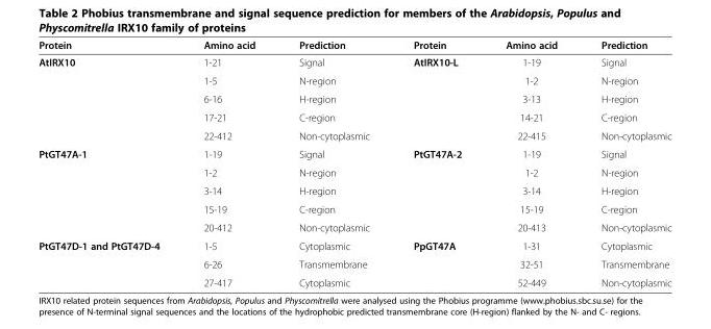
<table><thead><tr><td>Protein</td><td>Amino acid</td><td>Prediction</td><td>Protein</td><td>Amino acid</td><td>Prediction</td></tr></thead><tbody><tr><td rowspan="5">AtIRX10</td><td>1-21</td><td>Signal</td><td>AtIRX10-L</td><td>1-19</td><td>Signal</td></tr><tr><td>1-5</td><td>N-region</td><td></td><td>1-2</td><td>N-region</td></tr><tr><td>6-16</td><td>H-region</td><td></td><td>3-13</td><td>H-region</td></tr><tr><td>17-21</td><td>C-region</td><td></td><td>14-21</td><td>C-region</td></tr><tr><td>22-412</td><td>Non-cytoplasmic</td><td></td><td>22-415</td><td>Non-cytoplasmic</td></tr><tr><td rowspan="5">PtGT47A-1</td><td>1-19</td><td>Signal</td><td>PtGT47A-2</td><td>1-19</td><td>Signal</td></tr><tr><td>1-2</td><td>N-region</td><td></td><td>1-2</td><td>N-region</td></tr><tr><td>3-14</td><td>H-region</td><td></td><td>3-14</td><td>H-region</td></tr><tr><td>15-19</td><td>C-region</td><td></td><td>15-19</td><td>C-region</td></tr><tr><td>20-412</td><td>Non-cytoplasmic</td><td></td><td>20-413</td><td>Non-cytoplasmic</td></tr><tr><td rowspan="3">PtGT47D-1 and PtGT47D-4</td><td>1-5</td><td>Cytoplasmic</td><td>PpGT47A</td><td>1-31</td><td>Cytoplasmic</td></tr><tr><td>6-26</td><td>Transmembrane</td><td></td><td>32-51</td><td>Transmembrane</td></tr><tr><td>27-417</td><td>Cytoplasmic</td><td></td><td>52-449</td><td>Non-cytoplasmic</td></tr></tbody></table>